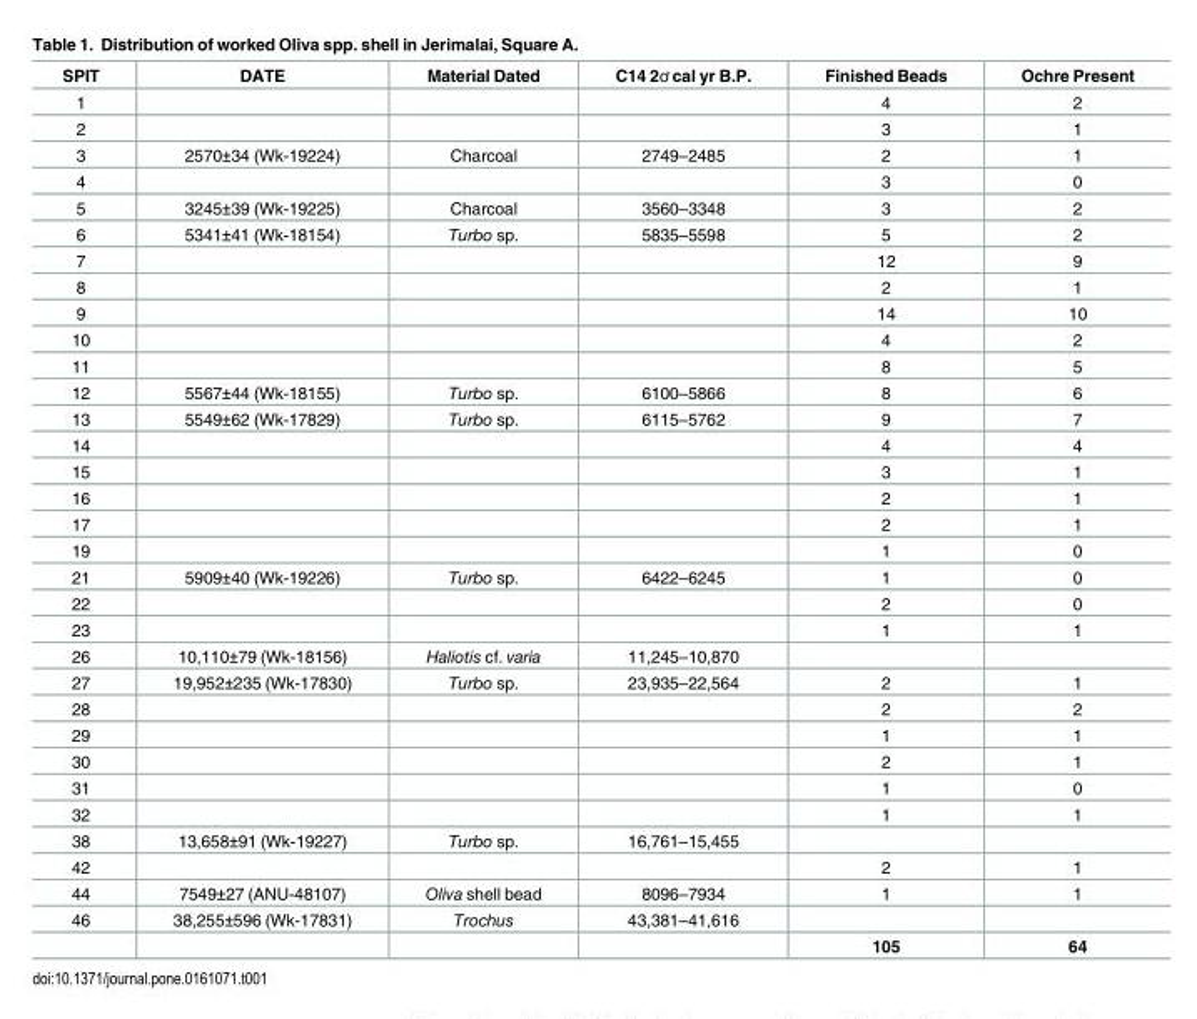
<table><thead><tr><td>SPIT</td><td>DATE</td><td>Material Dated</td><td>C14 2ơ cal yr B.P.</td><td>Finished Beads</td><td>Ochre Present</td></tr></thead><tbody><tr><td>1</td><td></td><td></td><td></td><td>4</td><td>2</td></tr><tr><td>2</td><td></td><td></td><td></td><td>3</td><td>1</td></tr><tr><td>3</td><td>2570±34 (Wk-19224)</td><td>Charcoal</td><td>2749–2485</td><td>2</td><td>1</td></tr><tr><td>4</td><td></td><td></td><td></td><td>3</td><td>0</td></tr><tr><td>5</td><td>3245±39 (Wk-19225)</td><td>Charcoal</td><td>3560–3348</td><td>3</td><td>2</td></tr><tr><td>6</td><td>5341±41 (Wk-18154)</td><td>Turbo sp.</td><td>5835–5598</td><td>5</td><td>2</td></tr><tr><td>7</td><td></td><td></td><td></td><td>12</td><td>9</td></tr><tr><td>8</td><td></td><td></td><td></td><td>2</td><td>1</td></tr><tr><td>9</td><td></td><td></td><td></td><td>14</td><td>10</td></tr><tr><td>10</td><td></td><td></td><td></td><td>4</td><td>2</td></tr><tr><td>11</td><td></td><td></td><td></td><td>8</td><td>5</td></tr><tr><td>12</td><td>5567±44 (Wk-18155)</td><td>Turbo sp.</td><td>6100–5866</td><td>8</td><td>6</td></tr><tr><td>13</td><td>5549±62 (Wk-17829)</td><td>Turbo sp.</td><td>6115–5762</td><td>9</td><td>7</td></tr><tr><td>14</td><td></td><td></td><td></td><td>4</td><td>4</td></tr><tr><td>15</td><td></td><td></td><td></td><td>3</td><td>1</td></tr><tr><td>16</td><td></td><td></td><td></td><td>2</td><td>1</td></tr><tr><td>17</td><td></td><td></td><td></td><td>2</td><td>1</td></tr><tr><td>19</td><td></td><td></td><td></td><td>1</td><td>0</td></tr><tr><td>21</td><td>5909±40 (Wk-19226)</td><td>Turbo sp.</td><td>6422–6245</td><td>1</td><td>0</td></tr><tr><td>22</td><td></td><td></td><td></td><td>2</td><td>0</td></tr><tr><td>23</td><td></td><td></td><td></td><td>1</td><td>1</td></tr><tr><td>26</td><td>10,110±79 (Wk-18156)</td><td>Haliotis cf. varia</td><td>11,245–10,870</td><td></td><td></td></tr><tr><td>27</td><td>19,952±235 (Wk-17830)</td><td>Turbo sp.</td><td>23,935–22,564</td><td>2</td><td>1</td></tr><tr><td>28</td><td></td><td></td><td></td><td>2</td><td>2</td></tr><tr><td>29</td><td></td><td></td><td></td><td>1</td><td>1</td></tr><tr><td>30</td><td></td><td></td><td></td><td>2</td><td>1</td></tr><tr><td>31</td><td></td><td></td><td></td><td>1</td><td>0</td></tr><tr><td>32</td><td></td><td></td><td></td><td>1</td><td>1</td></tr><tr><td>38</td><td>13,658±91 (Wk-19227)</td><td>Turbo sp.</td><td>16,761–15,455</td><td></td><td></td></tr><tr><td>42</td><td></td><td></td><td></td><td>2</td><td>1</td></tr><tr><td>44</td><td>7549±27 (ANU-48107)</td><td>Oliva shell bead</td><td>8096–7934</td><td>1</td><td>1</td></tr><tr><td rowspan="2">46</td><td>38,255±596 (Wk-17831)</td><td>Trochus</td><td>43,381–41,616</td><td></td><td></td></tr><tr><td></td><td></td><td></td><td>105</td><td>64</td></tr></tbody></table>